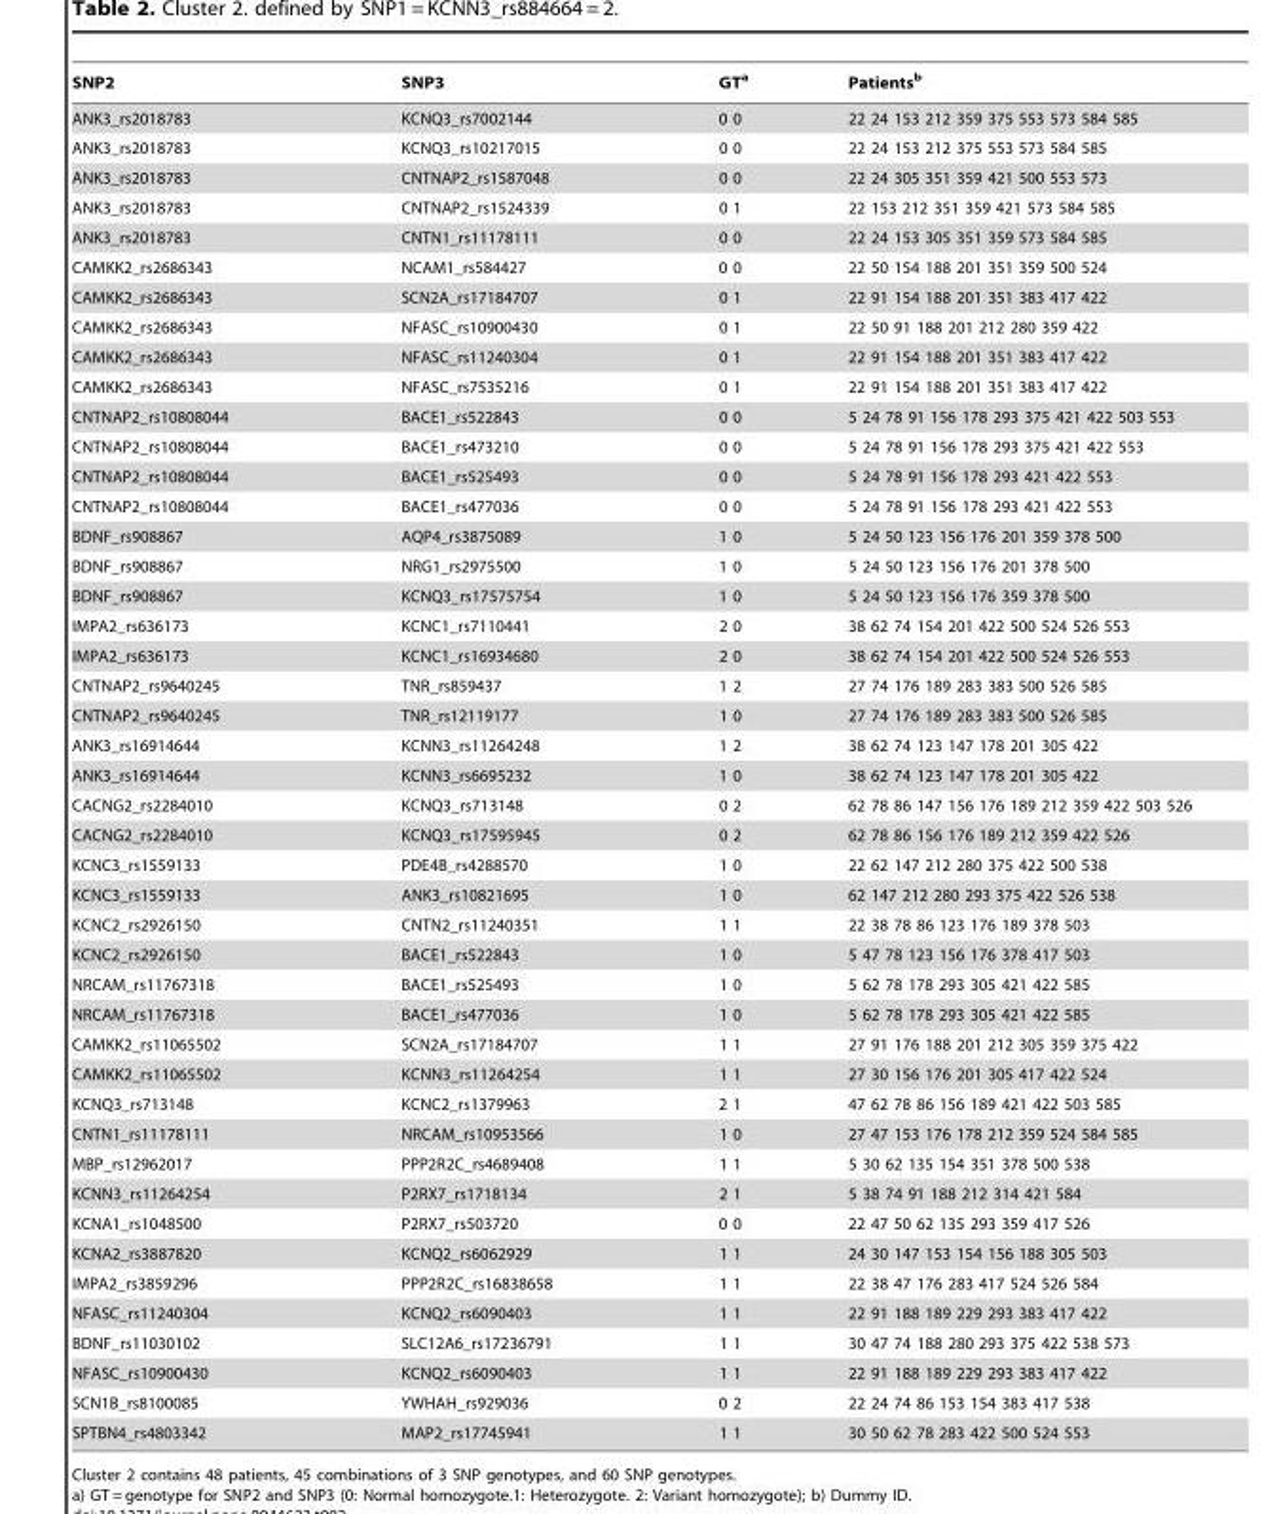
<table><thead><tr><td>SNP2</td><td>SNP3</td><td>GT<sup>a</sup></td><td>Patients<sup>b</sup></td></tr></thead><tbody><tr><td>ANK3_rs2018783</td><td>KCNQ3_rs7002144</td><td>0 0</td><td>22 24 153 212 359 375 553 573 584 585</td></tr><tr><td>ANK3_rs2018783</td><td>KCNQ3_rs10217015</td><td>0 0</td><td>22 24 153 212 375 553 573 584 585</td></tr><tr><td>ANK3_rs2018783</td><td>CNTNAP2_rs1587048</td><td>0 0</td><td>22 24 305 351 359 421 500 553 573</td></tr><tr><td>ANK3_rs2018783</td><td>CNTNAP2_rs1524339</td><td>0 1</td><td>22 153 212 351 359 421 573 584 585</td></tr><tr><td>ANK3_rs2018783</td><td>CNTN1_rs11178111</td><td>0 0</td><td>22 24 153 305 351 359 573 584 585</td></tr><tr><td>CAMKK2_rs2686343</td><td>NCAM1_rs584427</td><td>0 0</td><td>22 50 154 188 201 351 359 500 524</td></tr><tr><td>CAMKK2_rs2686343</td><td>SCN2A_rs17184707</td><td>0 1</td><td>22 91 154 188 201 351 383 417 422</td></tr><tr><td>CAMKK2_rs2686343</td><td>NFASC_rs10900430</td><td>0 1</td><td>22 50 91 188 201 212 280 359 422</td></tr><tr><td>CAMKK2_rs2686343</td><td>NFASC_rs11240304</td><td>0 1</td><td>22 91 154 188 201 351 383 417 422</td></tr><tr><td>CAMKK2_rs2686343</td><td>NFASC_rs7535216</td><td>0 1</td><td>22 91 154 188 201 351 383 417 422</td></tr><tr><td>CNTNAP2_rs10808044</td><td>BACE1_rs522843</td><td>0 0</td><td>5 24 78 91 156 178 293 375 421 422 503 553</td></tr><tr><td>CNTNAP2_rs10808044</td><td>BACE1_rs473210</td><td>0 0</td><td>5 24 78 91 156 178 293 375 421 422 553</td></tr><tr><td>CNTNAP2_rs10808044</td><td>BACE1_rs525493</td><td>0 0</td><td>5 24 78 91 156 178 293 421 422 553</td></tr><tr><td>CNTNAP2_rs10808044</td><td>BACE1_rs477036</td><td>0 0</td><td>5 24 78 91 156 178 293 421 422 553</td></tr><tr><td>BDNF_rs908867</td><td>AQP4_rs3875089</td><td>1 0</td><td>5 24 50 123 156 176 201 359 378 500</td></tr><tr><td>BDNF_rs908867</td><td>NRG1_rs2975500</td><td>1 0</td><td>5 24 50 123 156 176 201 378 500</td></tr><tr><td>BDNF_rs908867</td><td>KCNQ3_rs17575754</td><td>1 0</td><td>5 24 50 123 156 176 359 378 500</td></tr><tr><td>IMPA2_rs636173</td><td>KCNC1_rs7110441</td><td>2 0</td><td>38 62 74 154 201 422 500 524 526 553</td></tr><tr><td>IMPA2_rs636173</td><td>KCNC1_rs16934680</td><td>2 0</td><td>38 62 74 154 201 422 500 524 526 553</td></tr><tr><td>CNTNAP2_rs9640245</td><td>TNR_rs859437</td><td>1 2</td><td>27 74 176 189 283 383 500 526 585</td></tr><tr><td>CNTNAP2_rs9640245</td><td>TNR_rs12119177</td><td>1 0</td><td>27 74 176 189 283 383 500 526 585</td></tr><tr><td>ANK3_rs16914644</td><td>KCNN3_rs11264248</td><td>1 2</td><td>38 62 74 123 147 178 201 305 422</td></tr><tr><td>ANK3_rs16914644</td><td>KCNN3_rs6695232</td><td>1 0</td><td>38 62 74 123 147 178 201 305 422</td></tr><tr><td>CACNG2_rs2284010</td><td>KCNQ3_rs713148</td><td>0 2</td><td>62 78 86 147 156 176 189 212 359 422 503 526</td></tr><tr><td>CACNG2_rs2284010</td><td>KCNQ3_rs17595945</td><td>0 2</td><td>62 78 86 156 176 189 212 359 422 526</td></tr><tr><td>KCNC3_rs1559133</td><td>PDE4B_rs4288570</td><td>1 0</td><td>22 62 147 212 280 375 422 500 538</td></tr><tr><td>KCNC3_rs1559133</td><td>ANK3_rs10821695</td><td>1 0</td><td>62 147 212 280 293 375 422 526 538</td></tr><tr><td>KCNC2_rs2926150</td><td>CNTN2_rs11240351</td><td>1 1</td><td>22 38 78 86 123 176 189 378 503</td></tr><tr><td>KCNC2_rs2926150</td><td>BACE1_rs522843</td><td>1 0</td><td>5 47 78 123 156 176 378 417 503</td></tr><tr><td>NRCAM_rs11767318</td><td>BACE1_rs525493</td><td>1 0</td><td>5 62 78 178 293 305 421 422 585</td></tr><tr><td>NRCAM_rs11767318</td><td>BACE1_rs477036</td><td>1 0</td><td>5 62 78 178 293 305 421 422 585</td></tr><tr><td>CAMKK2_rs11065502</td><td>SCN2A_rs17184707</td><td>1 1</td><td>27 91 176 188 201 212 305 359 375 422</td></tr><tr><td>CAMKK2_rs11065502</td><td>KCNN3_rs11264254</td><td>1 1</td><td>27 30 156 176 201 305 417 422 524</td></tr><tr><td>KCNQ3_rs713148</td><td>KCNC2_rs1379963</td><td>2 1</td><td>47 62 78 86 156 189 421 422 503 585</td></tr><tr><td>CNTN1_rs11178111</td><td>NRCAM_rs10953566</td><td>1 0</td><td>27 47 153 176 178 212 359 524 584 585</td></tr><tr><td>MBP_rs12962017</td><td>PPP2R2C_rs4689408</td><td>1 1</td><td>5 30 62 135 154 351 378 500 538</td></tr><tr><td>KCNN3_rs11264254</td><td>P2RX7_rs1718134</td><td>2 1</td><td>5 38 74 91 188 212 314 421 584</td></tr><tr><td>KCNA1_rs1048500</td><td>P2RX7_rs503720</td><td>0 0</td><td>22 47 50 62 135 293 359 417 526</td></tr><tr><td>KCNA2_rs3887820</td><td>KCNQ2_rs6062929</td><td>1 1</td><td>24 30 147 153 154 156 188 305 503</td></tr><tr><td>IMPA2_rs3859296</td><td>PPP2R2C_rs16838658</td><td>1 1</td><td>22 38 47 176 283 417 524 526 584</td></tr><tr><td>NFASC_rs11240304</td><td>KCNQ2_rs6090403</td><td>1 1</td><td>22 91 188 189 229 293 383 417 422</td></tr><tr><td>BDNF_rs11030102</td><td>SLC12A6_rs17236791</td><td>1 1</td><td>30 47 74 188 280 293 375 422 538 573</td></tr><tr><td>NFASC_rs10900430</td><td>KCNQ2_rs6090403</td><td>1 1</td><td>22 91 188 189 229 293 383 417 422</td></tr><tr><td>SCN1B_rs8100085</td><td>YWHAH_rs929036</td><td>0 2</td><td>22 24 74 86 153 154 383 417 538</td></tr><tr><td>SPTBN4_rs4803342</td><td>MAP2_rs17745941</td><td>1 1</td><td>30 50 62 78 283 422 500 524 553</td></tr></tbody></table>